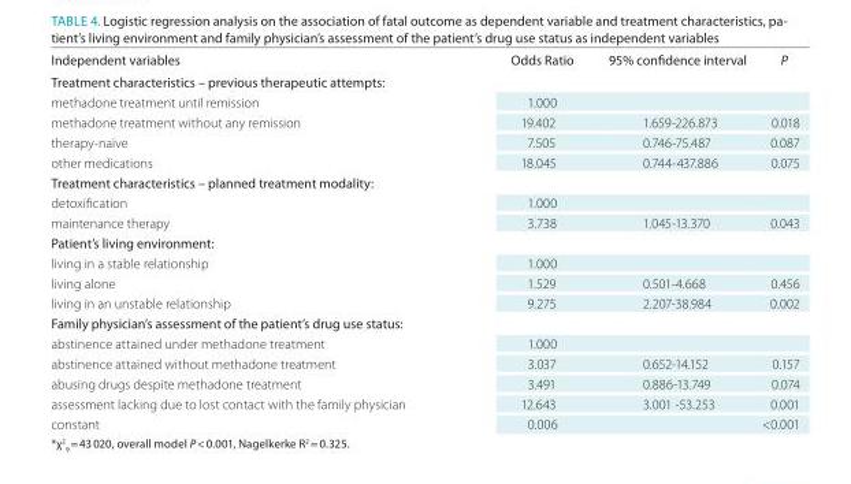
<table><thead><tr><td>independent variables</td><td>Odds ratio</td><td>95% confidence interval</td><td>P</td></tr></thead><tbody><tr><td colspan="4">Treatment characteristics – previous therapeutic attempts:</td></tr><tr><td>methadone treatment until remission</td><td>1.000</td><td></td><td></td></tr><tr><td>methadone treatment without any remission</td><td>19.402</td><td>1.659-226.873</td><td>0.018</td></tr><tr><td>therapy-naïve</td><td>7.505</td><td>0.746-75.487</td><td>0.087</td></tr><tr><td>other medications</td><td>18.045</td><td>0.744-437.886</td><td>0.075</td></tr><tr><td colspan="4">Treatment characteristics – planned treatment modality:</td></tr><tr><td>detoxification</td><td>1.000</td><td></td><td></td></tr><tr><td>maintenance therapy</td><td>3.738</td><td>1.045-13.370</td><td>0.043</td></tr><tr><td colspan="4">Patient’s living environment:</td></tr><tr><td>living in a stable relationship</td><td>1.000</td><td></td><td></td></tr><tr><td>living alone</td><td>1.529</td><td>0.501-4.668</td><td>0.456</td></tr><tr><td>living in an unstable relationship</td><td>9.275</td><td>2.207-38.984</td><td>0.002</td></tr><tr><td colspan="4">Family physician’s assessment of the patient’s drug use status:</td></tr><tr><td>abstinence attained under methadone treatment</td><td>1.000</td><td></td><td></td></tr><tr><td>abstinence attained without methadone treatment</td><td>3.037</td><td>0.652-14.152</td><td>0.157</td></tr><tr><td>abusing drugs despite methadone treatment</td><td>3.491</td><td>0.886-13.749</td><td>0.074</td></tr><tr><td>assessment lacking due to lost contact with the family physician</td><td>12.643</td><td>3.001 -53.253</td><td>0.001</td></tr><tr><td>constant</td><td>0.006</td><td></td><td>&lt;0.001</td></tr></tbody></table>